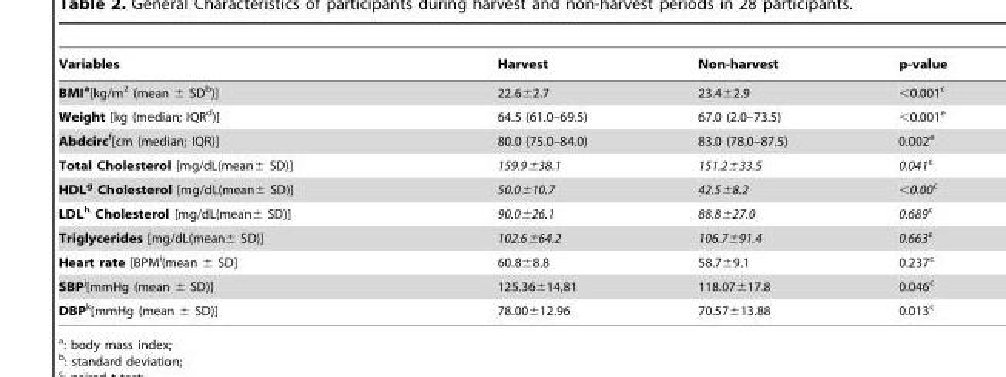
<table><thead><tr><td>Variables</td><td>Harvest</td><td>Non-harvest</td><td>p-value</td></tr></thead><tbody><tr><td>BMIa[kg/m<sup>2</sup> (mean ± SD<sup>b</sup>)]</td><td>22.6±2.7</td><td>23.4±2.9</td><td>&lt;0.001<sup>c</sup></td></tr><tr><td>Weight [kg (median; IQR<sup>d</sup>)]</td><td>64.5 (61.0–69.5)</td><td>67.0 (2.0–73.5)</td><td>&lt;0.001<sup>e</sup></td></tr><tr><td>Abdcircf[cm (median; IQR)]</td><td>80.0 (75.0–84.0)</td><td>83.0 (78.0–87.5)</td><td>0.002<sup>e</sup></td></tr><tr><td>Total Cholesterol [mg/dL(mean± SD)]</td><td>159.9±38.1</td><td>151.2±33.5</td><td>0.041c</td></tr><tr><td>HDLg Cholesterol [mg/dL(mean± SD)]</td><td>50.0±10.7</td><td>42.5±8.2</td><td>&lt;0.00c</td></tr><tr><td>LDLh Cholesterol [mg/dL(mean± SD)]</td><td>90.0±26.1</td><td>88.8±27.0</td><td>0.689c</td></tr><tr><td>Triglycerides [mg/dL(mean± SD)]</td><td>102.6±64.2</td><td>106.7±91.4</td><td>0.663c</td></tr><tr><td>Heart rate [BPM<sup>i</sup>(mean ± SD]</td><td>60.8±8.8</td><td>58.7±9.1</td><td>0.237<sup>c</sup></td></tr><tr><td>SBPj[mmHg (mean ± SD)]</td><td>125.36±14,81</td><td>118.07±17.8</td><td>0.046<sup>c</sup></td></tr><tr><td>DBPk[mmHg (mean ± SD)]</td><td>78.00±12.96</td><td>70.57±13.88</td><td>0.013<sup>c</sup></td></tr></tbody></table>